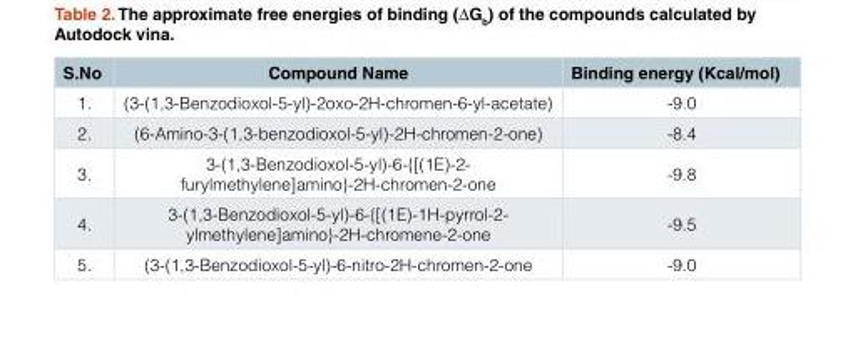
<table><thead><tr><td>S.No</td><td>Compound Name</td><td>Binding energy (Kcal/mol)</td></tr></thead><tbody><tr><td>1.</td><td>(3-(1,3-Benzodioxol-5-yl)-2oxo-2H-chromen-6-yl-acetate)</td><td>-9.0</td></tr><tr><td>2.</td><td>(6-Amino-3-(1,3-benzodioxol-5-yl)-2H-chromen-2-one)</td><td>-8.4</td></tr><tr><td>3.</td><td>3-(1,3-Benzodioxol-5-yl)-6-{[(1E)-2- furylmethylene]amino}-2H-chromen-2-one</td><td>-9.8</td></tr><tr><td>4.</td><td>3-(1,3-Benzodioxol-5-yl)-6-{[(1E)-1H-pyrrol-2- ylmethylene]amino}-2H-chromene-2-one</td><td>-9.5</td></tr><tr><td>5.</td><td>(3-(1,3-Benzodioxol-5-yl)-6-nitro-2H-chromen-2-one</td><td>-9.0</td></tr></tbody></table>